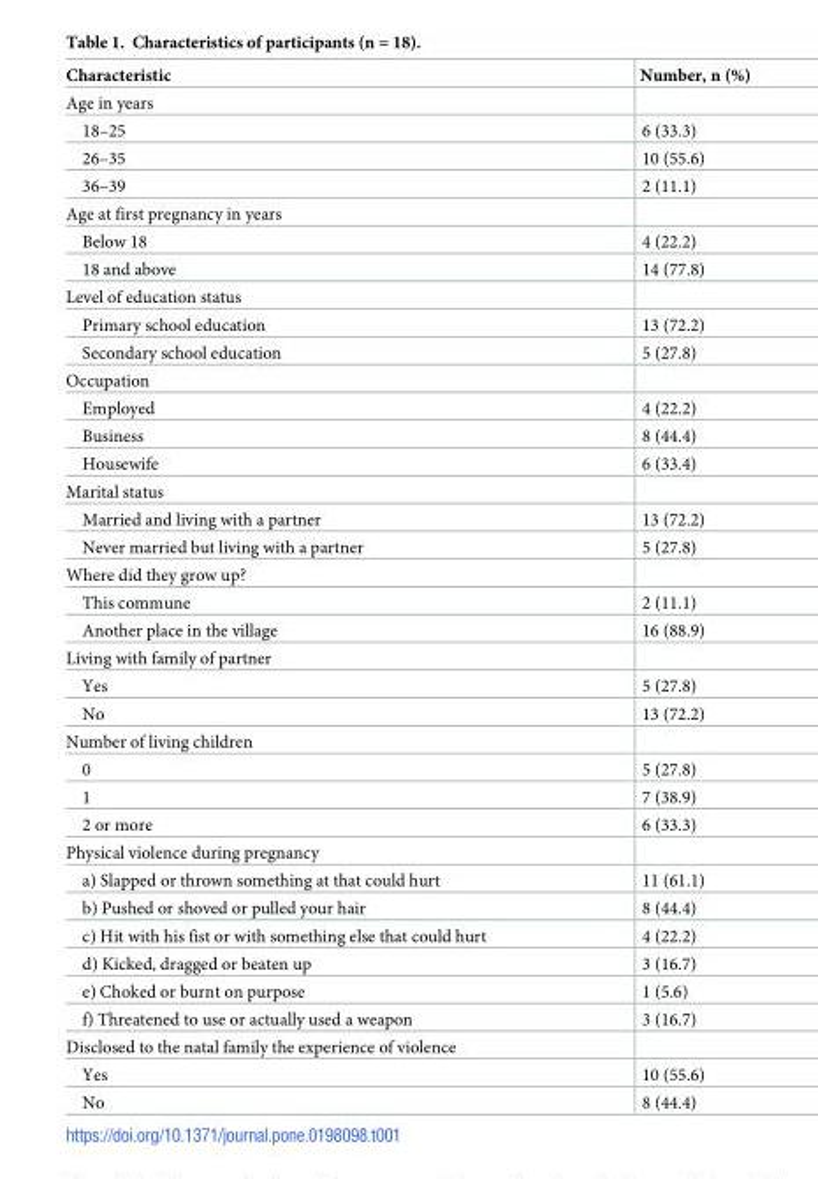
<table><thead><tr><td>Characteristic</td><td>Number, n (%)</td></tr></thead><tbody><tr><td colspan="2">Age in years</td></tr><tr><td>18–25</td><td>6 (33.3)</td></tr><tr><td>26–35</td><td>10 (55.6)</td></tr><tr><td>36–39</td><td>2 (11.1)</td></tr><tr><td colspan="2">Age at first pregnancy in years</td></tr><tr><td>Below 18</td><td>4 (22.2)</td></tr><tr><td>18 and above</td><td>14 (77.8)</td></tr><tr><td colspan="2">Level of education status</td></tr><tr><td>Primary school education</td><td>13 (72.2)</td></tr><tr><td>Secondary school education</td><td>5 (27.8)</td></tr><tr><td colspan="2">Occupation</td></tr><tr><td>Employed</td><td>4 (22.2)</td></tr><tr><td>Business</td><td>8 (44.4)</td></tr><tr><td>Housewife</td><td>6 (33.4)</td></tr><tr><td colspan="2">Marital status</td></tr><tr><td>Married and living with a partner</td><td>13 (72.2)</td></tr><tr><td>Never married but living with a partner</td><td>5 (27.8)</td></tr><tr><td colspan="2">Where did they grow up?</td></tr><tr><td>This commune</td><td>2 (11.1)</td></tr><tr><td>Another place in the village</td><td>16 (88.9)</td></tr><tr><td colspan="2">Living with family of partner</td></tr><tr><td>Yes</td><td>5 (27.8)</td></tr><tr><td>No</td><td>13 (72.2)</td></tr><tr><td colspan="2">Number of living children</td></tr><tr><td>0</td><td>5 (27.8)</td></tr><tr><td>1</td><td>7 (38.9)</td></tr><tr><td>2 or more</td><td>6 (33.3)</td></tr><tr><td colspan="2">Physical violence during pregnancy</td></tr><tr><td>a) Slapped or thrown something at that could hurt</td><td>11 (61.1)</td></tr><tr><td>b) Pushed or shoved or pulled your hair</td><td>8 (44.4)</td></tr><tr><td>c) Hit with his fist or with something else that could hurt</td><td>4 (22.2)</td></tr><tr><td>d) Kicked, dragged or beaten up</td><td>3 (16.7)</td></tr><tr><td>e) Choked or burnt on purpose</td><td>1 (5.6)</td></tr><tr><td>f) Threatened to use or actually used a weapon</td><td>3 (16.7)</td></tr><tr><td colspan="2">Disclosed to the natal family the experience of violence</td></tr><tr><td>Yes</td><td>10 (55.6)</td></tr><tr><td>No</td><td>8 (44.4)</td></tr></tbody></table>